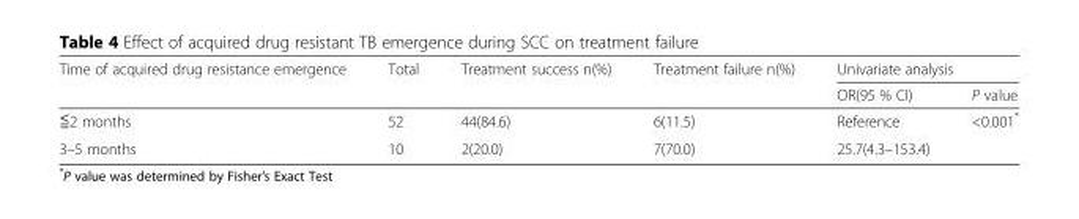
<table><thead><tr><td rowspan="2">Time of acquired drug resistance emergence</td><td rowspan="2">Total</td><td rowspan="2">Treatment success n(%)</td><td rowspan="2">Treatment failure n(%)</td><td colspan="2">Univariate analysis</td></tr><tr><td>OR(95 % CI)</td><td>P value</td></tr></thead><tbody><tr><td>≦2 months</td><td>52</td><td>44(84.6)</td><td>6(11.5)</td><td>Reference</td><td>&lt;0.001*</td></tr><tr><td>3–5 months</td><td>10</td><td>2(20.0)</td><td>7(70.0)</td><td>25.7(4.3–153.4)</td><td></td></tr></tbody></table>